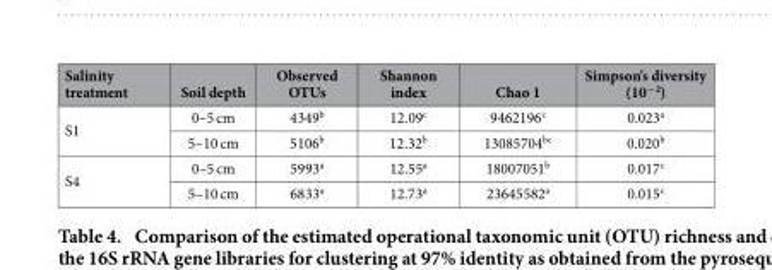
<table><thead><tr><td>Salinity treatment</td><td>Soil depth</td><td>Observed OTUs</td><td>Shannon index</td><td>Chao 1</td><td>Simpson’s diversity (10<sup>−2</sup>)</td></tr></thead><tbody><tr><td rowspan="2">S1</td><td>0–5 cm</td><td>4349<sup>b</sup></td><td>12.09<sup>c</sup></td><td>9462196<sup>c</sup></td><td>0.023<sup>a</sup></td></tr><tr><td>5–10 cm</td><td>5106<sup>b</sup></td><td>12.32<sup>b</sup></td><td>13085704<sup>bc</sup></td><td>0.020<sup>b</sup></td></tr><tr><td rowspan="2">S4</td><td>0–5 cm</td><td>5993<sup>a</sup></td><td>12.55<sup>a</sup></td><td>18007051<sup>b</sup></td><td>0.017<sup>c</sup></td></tr><tr><td>5–10 cm</td><td>6833<sup>a</sup></td><td>12.73<sup>a</sup></td><td>23645582<sup>a</sup></td><td>0.015<sup>c</sup></td></tr></tbody></table>